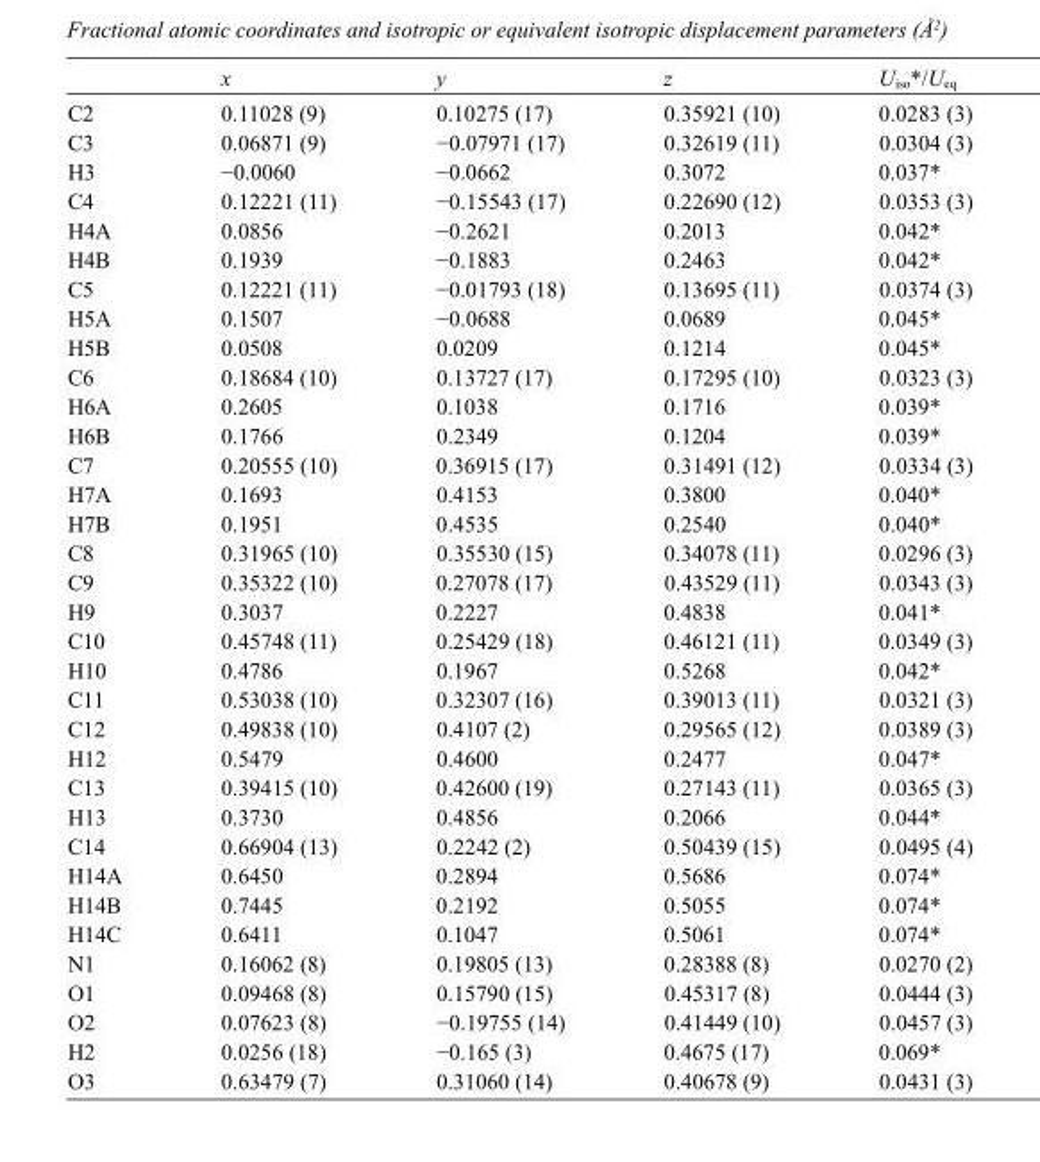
<table><thead><tr><td></td><td>x</td><td>y</td><td>z</td><td>U<sub>iso</sub>*/U<sub>eq</sub></td></tr></thead><tbody><tr><td>C2</td><td>0.11028 (9)</td><td>0.10275 (17)</td><td>0.35921 (10)</td><td>0.0283 (3)</td></tr><tr><td>C3</td><td>0.06871 (9)</td><td>−0.07971 (17)</td><td>0.32619 (11)</td><td>0.0304 (3)</td></tr><tr><td>H3</td><td>−0.0060</td><td>−0.0662</td><td>0.3072</td><td>0.037*</td></tr><tr><td>C4</td><td>0.12221 (11)</td><td>−0.15543 (17)</td><td>0.22690 (12)</td><td>0.0353 (3)</td></tr><tr><td>H4A</td><td>0.0856</td><td>−0.2621</td><td>0.2013</td><td>0.042*</td></tr><tr><td>H4B</td><td>0.1939</td><td>−0.1883</td><td>0.2463</td><td>0.042*</td></tr><tr><td>C5</td><td>0.12221 (11)</td><td>−0.01793 (18)</td><td>0.13695 (11)</td><td>0.0374 (3)</td></tr><tr><td>H5A</td><td>0.1507</td><td>−0.0688</td><td>0.0689</td><td>0.045*</td></tr><tr><td>H5B</td><td>0.0508</td><td>0.0209</td><td>0.1214</td><td>0.045*</td></tr><tr><td>C6</td><td>0.18684 (10)</td><td>0.13727 (17)</td><td>0.17295 (10)</td><td>0.0323 (3)</td></tr><tr><td>H6A</td><td>0.2605</td><td>0.1038</td><td>0.1716</td><td>0.039*</td></tr><tr><td>H6B</td><td>0.1766</td><td>0.2349</td><td>0.1204</td><td>0.039*</td></tr><tr><td>C7</td><td>0.20555 (10)</td><td>0.36915 (17)</td><td>0.31491 (12)</td><td>0.0334 (3)</td></tr><tr><td>H7A</td><td>0.1693</td><td>0.4153</td><td>0.3800</td><td>0.040*</td></tr><tr><td>H7B</td><td>0.1951</td><td>0.4535</td><td>0.2540</td><td>0.040*</td></tr><tr><td>C8</td><td>0.31965 (10)</td><td>0.35530 (15)</td><td>0.34078 (11)</td><td>0.0296 (3)</td></tr><tr><td>C9</td><td>0.35322 (10)</td><td>0.27078 (17)</td><td>0.43529 (11)</td><td>0.0343 (3)</td></tr><tr><td>H9</td><td>0.3037</td><td>0.2227</td><td>0.4838</td><td>0.041*</td></tr><tr><td>C10</td><td>0.45748 (11)</td><td>0.25429 (18)</td><td>0.46121 (11)</td><td>0.0349 (3)</td></tr><tr><td>H10</td><td>0.4786</td><td>0.1967</td><td>0.5268</td><td>0.042*</td></tr><tr><td>C11</td><td>0.53038 (10)</td><td>0.32307 (16)</td><td>0.39013 (11)</td><td>0.0321 (3)</td></tr><tr><td>C12</td><td>0.49838 (10)</td><td>0.4107 (2)</td><td>0.29565 (12)</td><td>0.0389 (3)</td></tr><tr><td>H12</td><td>0.5479</td><td>0.4600</td><td>0.2477</td><td>0.047*</td></tr><tr><td>C13</td><td>0.39415 (10)</td><td>0.42600 (19)</td><td>0.27143 (11)</td><td>0.0365 (3)</td></tr><tr><td>H13</td><td>0.3730</td><td>0.4856</td><td>0.2066</td><td>0.044*</td></tr><tr><td>C14</td><td>0.66904 (13)</td><td>0.2242 (2)</td><td>0.50439 (15)</td><td>0.0495 (4)</td></tr><tr><td>H14A</td><td>0.6450</td><td>0.2894</td><td>0.5686</td><td>0.074*</td></tr><tr><td>H14B</td><td>0.7445</td><td>0.2192</td><td>0.5055</td><td>0.074*</td></tr><tr><td>H14C</td><td>0.6411</td><td>0.1047</td><td>0.5061</td><td>0.074*</td></tr><tr><td>N1</td><td>0.16062 (8)</td><td>0.19805 (13)</td><td>0.28388 (8)</td><td>0.0270 (2)</td></tr><tr><td>O1</td><td>0.09468 (8)</td><td>0.15790 (15)</td><td>0.45317 (8)</td><td>0.0444 (3)</td></tr><tr><td>O2</td><td>0.07623 (8)</td><td>−0.19755 (14)</td><td>0.41449 (10)</td><td>0.0457 (3)</td></tr><tr><td>H2</td><td>0.0256 (18)</td><td>−0.165 (3)</td><td>0.4675 (17)</td><td>0.069*</td></tr><tr><td>O3</td><td>0.63479 (7)</td><td>0.31060 (14)</td><td>0.40678 (9)</td><td>0.0431 (3)</td></tr></tbody></table>